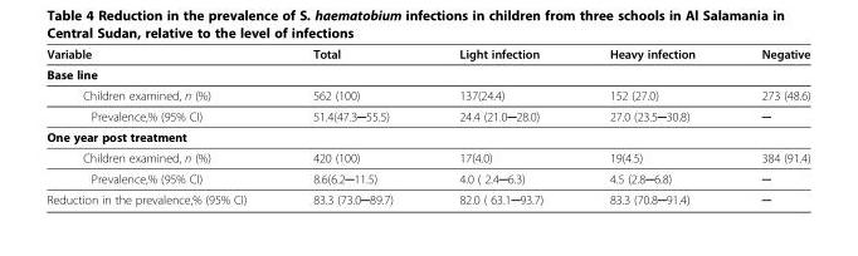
<table><thead><tr><td>Variable</td><td>Total</td><td>Light infection</td><td>Heavy infection</td><td>Negative</td></tr></thead><tbody><tr><td colspan="5">Base line</td></tr><tr><td>Children examined, n (%)</td><td>562 (100)</td><td>137(24.4)</td><td>152 (27.0)</td><td>273 (48.6)</td></tr><tr><td>Prevalence,% (95% CI)</td><td>51.4(47.3─55.5)</td><td>24.4 (21.0─28.0)</td><td>27.0 (23.5─30.8)</td><td>─</td></tr><tr><td colspan="5">One year post treatment</td></tr><tr><td>Children examined, n (%)</td><td>420 (100)</td><td>17(4.0)</td><td>19(4.5)</td><td>384 (91.4)</td></tr><tr><td>Prevalence,% (95% CI)</td><td>8.6(6.2─11.5)</td><td>4.0 ( 2.4─6.3)</td><td>4.5 (2.8─6.8)</td><td>─</td></tr><tr><td>Reduction in the prevalence,% (95% CI)</td><td>83.3 (73.0─89.7)</td><td>82.0 ( 63.1─93.7)</td><td>83.3 (70.8─91.4)</td><td>─</td></tr></tbody></table>